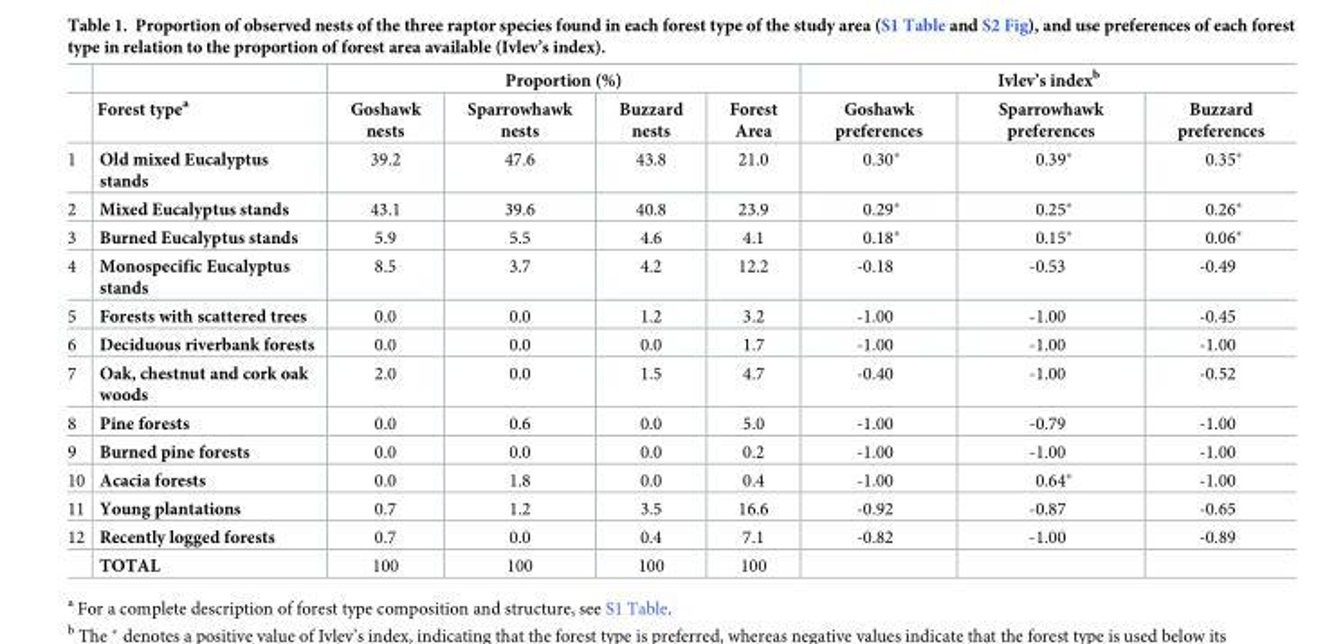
<table><thead><tr><td rowspan="2"></td><td rowspan="2">Forest type<sup>a</sup></td><td colspan="4">Proportion (%)</td><td colspan="3">Ivlev’s index<sup>b</sup></td></tr><tr><td>Goshawk nests</td><td>Sparrowhawk nests</td><td>Buzzard nests</td><td>Forest Area</td><td>Goshawk preferences</td><td>Sparrowhawk preferences</td><td>Buzzard preferences</td></tr></thead><tbody><tr><td>1</td><td>Old mixed Eucalyptus stands</td><td>39.2</td><td>47.6</td><td>43.8</td><td>21.0</td><td>0.30*</td><td>0.39*</td><td>0.35*</td></tr><tr><td>2</td><td>Mixed Eucalyptus stands</td><td>43.1</td><td>39.6</td><td>40.8</td><td>23.9</td><td>0.29*</td><td>0.25*</td><td>0.26*</td></tr><tr><td>3</td><td>Burned Eucalyptus stands</td><td>5.9</td><td>5.5</td><td>4.6</td><td>4.1</td><td>0.18*</td><td>0.15*</td><td>0.06*</td></tr><tr><td>4</td><td>Monospecific Eucalyptus stands</td><td>8.5</td><td>3.7</td><td>4.2</td><td>12.2</td><td>-0.18</td><td>-0.53</td><td>-0.49</td></tr><tr><td>5</td><td>Forests with scattered trees</td><td>0.0</td><td>0.0</td><td>1.2</td><td>3.2</td><td>-1.00</td><td>-1.00</td><td>-0.45</td></tr><tr><td>6</td><td>Deciduous riverbank forests</td><td>0.0</td><td>0.0</td><td>0.0</td><td>1.7</td><td>-1.00</td><td>-1.00</td><td>-1.00</td></tr><tr><td>7</td><td>Oak, chestnut and cork oak woods</td><td>2.0</td><td>0.0</td><td>1.5</td><td>4.7</td><td>-0.40</td><td>-1.00</td><td>-0.52</td></tr><tr><td>8</td><td>Pine forests</td><td>0.0</td><td>0.6</td><td>0.0</td><td>5.0</td><td>-1.00</td><td>-0.79</td><td>-1.00</td></tr><tr><td>9</td><td>Burned pine forests</td><td>0.0</td><td>0.0</td><td>0.0</td><td>0.2</td><td>-1.00</td><td>-1.00</td><td>-1.00</td></tr><tr><td>10</td><td>Acacia forests</td><td>0.0</td><td>1.8</td><td>0.0</td><td>0.4</td><td>-1.00</td><td>0.64*</td><td>-1.00</td></tr><tr><td>11</td><td>Young plantations</td><td>0.7</td><td>1.2</td><td>3.5</td><td>16.6</td><td>-0.92</td><td>-0.87</td><td>-0.65</td></tr><tr><td rowspan="2">12</td><td>Recently logged forests</td><td>0.7</td><td>0.0</td><td>0.4</td><td>7.1</td><td>-0.82</td><td>-1.00</td><td>-0.89</td></tr><tr><td>TOTAL</td><td>100</td><td>100</td><td>100</td><td>100</td><td></td><td></td><td></td></tr></tbody></table>